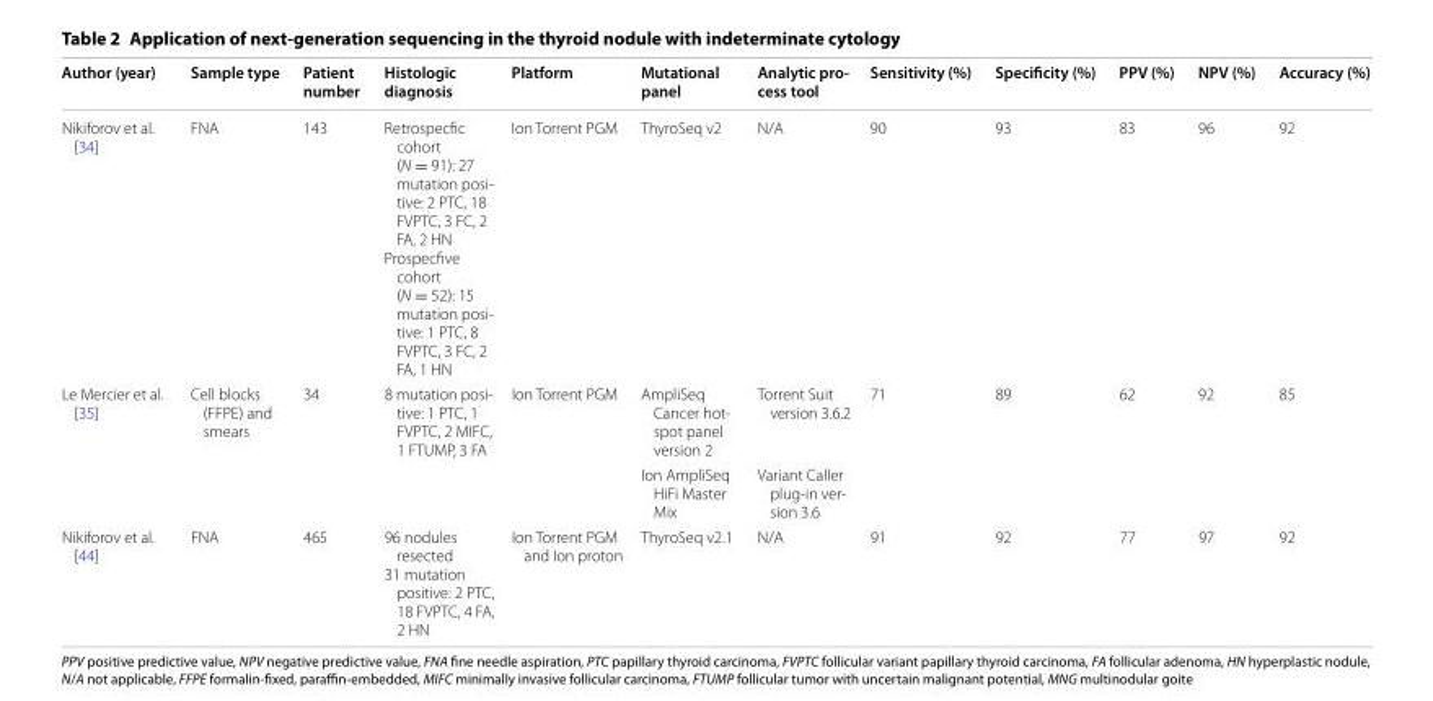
<table><thead><tr><td>Author (year)</td><td>Sample type</td><td>Patient number</td><td>Histologic diagnosis</td><td>Platform</td><td>Mutational panel</td><td>Analytic pro- cess tool</td><td>Sensitivity (%)</td><td>Specificity (%)</td><td>PPV (%)</td><td>NPV (%)</td><td>Accuracy (%)</td></tr></thead><tbody><tr><td>Nikiforov et al. [34]</td><td>FNA</td><td>143</td><td>Retrospecfic cohort (N = 91): 27 mutation posi- tive: 2 PTC, 18 FVPTC, 3 FC, 2 FA, 2 HN Prospecfive cohort (N = 52): 15 mutation posi- tive: 1 PTC, 8 FVPTC, 3 FC, 2 FA, 1 HN</td><td>Ion Torrent PGM</td><td>ThyroSeq v2</td><td>N/A</td><td>90</td><td>93</td><td>83</td><td>96</td><td>92</td></tr><tr><td rowspan="2">Le Mercier et al. [35]</td><td rowspan="2">Cell blocks (FFPE) and smears</td><td rowspan="2">34</td><td rowspan="2">8 mutation posi- tive: 1 PTC, 1 FVPTC, 2 MIFC, 1 FTUMP, 3 FA</td><td rowspan="2">Ion Torrent PGM</td><td>AmpliSeq Cancer hot- spot panel version 2</td><td>Torrent Suit version 3.6.2</td><td rowspan="2">71</td><td rowspan="2">89</td><td rowspan="2">62</td><td rowspan="2">92</td><td rowspan="2">85</td></tr><tr><td>Ion AmpliSeq HiFi Master Mix</td><td>Variant Caller plug-in ver- sion 3.6</td></tr><tr><td>Nikiforov et al. [44]</td><td>FNA</td><td>465</td><td>96 nodules resected 31 mutation positive: 2 PTC, 18 FVPTC, 4 FA, 2 HN</td><td>Ion Torrent PGM and Ion proton</td><td>ThyroSeq v2.1</td><td>N/A</td><td>91</td><td>92</td><td>77</td><td>97</td><td>92</td></tr></tbody></table>